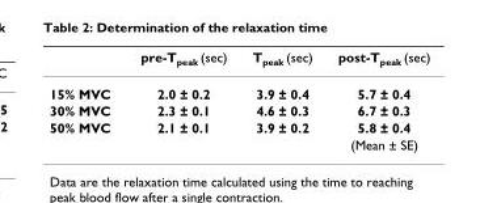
<table><thead><tr><td></td><td>pre-T<sub>peak</sub> (sec)</td><td>T<sub>peak</sub> (sec)</td><td>post-T<sub>peak</sub> (sec)</td></tr></thead><tbody><tr><td>15% MVC</td><td>2.0 ± 0.2</td><td>3.9 ± 0.4</td><td>5.7 ± 0.4</td></tr><tr><td>30% MVC</td><td>2.3 ± 0.1</td><td>4.6 ± 0.3</td><td>6.7 ± 0.3</td></tr><tr><td rowspan="2">50% MVC</td><td>2.1 ± 0.1</td><td>3.9 ± 0.2</td><td>5.8 ± 0.4</td></tr><tr><td></td><td></td><td>(Mean ± SE)</td></tr></tbody></table>